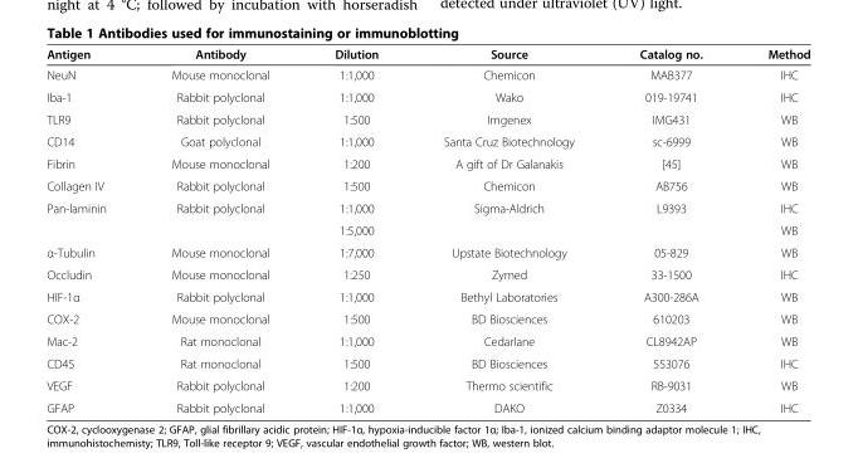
<table><thead><tr><td>Antigen</td><td>Antibody</td><td>Dilution</td><td>Source</td><td>Catalog no.</td><td>Method</td></tr></thead><tbody><tr><td>NeuN</td><td>Mouse monoclonal</td><td>1:1,000</td><td>Chemicon</td><td>MAB377</td><td>IHC</td></tr><tr><td>Iba-1</td><td>Rabbit polyclonal</td><td>1:1,000</td><td>Wako</td><td>019-19741</td><td>IHC</td></tr><tr><td>TLR9</td><td>Rabbit polyclonal</td><td>1:500</td><td>Imgenex</td><td>IMG431</td><td>WB</td></tr><tr><td>CD14</td><td>Goat polyclonal</td><td>1:1,000</td><td>Santa Cruz Biotechnology</td><td>sc-6999</td><td>WB</td></tr><tr><td>Fibrin</td><td>Mouse monoclonal</td><td>1:200</td><td>A gift of Dr Galanakis</td><td>[45]</td><td>WB</td></tr><tr><td>Collagen IV</td><td>Rabbit polyclonal</td><td>1:500</td><td>Chemicon</td><td>AB756</td><td>WB</td></tr><tr><td rowspan="2">Pan-laminin</td><td>Rabbit polyclonal</td><td>1:1,000</td><td>Sigma-Aldrich</td><td>L9393</td><td>IHC</td></tr><tr><td></td><td>1:5,000</td><td></td><td></td><td>WB</td></tr><tr><td>α-Tubulin</td><td>Mouse monoclonal</td><td>1:7,000</td><td>Upstate Biotechnology</td><td>05-829</td><td>WB</td></tr><tr><td>Occludin</td><td>Mouse monoclonal</td><td>1:250</td><td>Zymed</td><td>33-1500</td><td>IHC</td></tr><tr><td>HIF-1α</td><td>Rabbit polyclonal</td><td>1:1,000</td><td>Bethyl Laboratories</td><td>A300-286A</td><td>WB</td></tr><tr><td>COX-2</td><td>Mouse monoclonal</td><td>1:500</td><td>BD Biosciences</td><td>610203</td><td>WB</td></tr><tr><td>Mac-2</td><td>Rat monoclonal</td><td>1:1,000</td><td>Cedarlane</td><td>CL8942AP</td><td>WB</td></tr><tr><td>CD45</td><td>Rat monoclonal</td><td>1:500</td><td>BD Biosciences</td><td>553076</td><td>IHC</td></tr><tr><td>VEGF</td><td>Rabbit polyclonal</td><td>1:200</td><td>Thermo scientific</td><td>RB-9031</td><td>WB</td></tr><tr><td>GFAP</td><td>Rabbit polyclonal</td><td>1:1,000</td><td>DAKO</td><td>Z0334</td><td>IHC</td></tr></tbody></table>